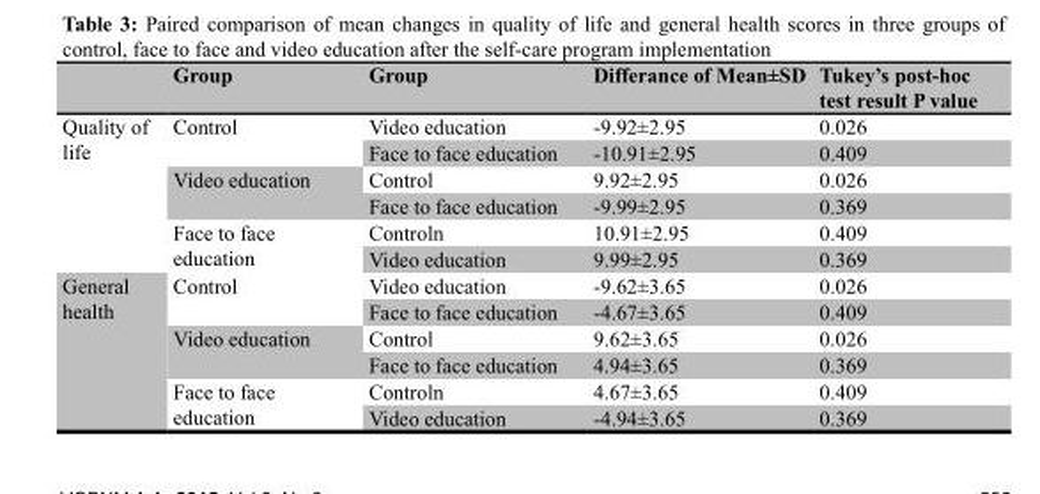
<table><thead><tr><td></td><td>Group</td><td>Group</td><td>Differance of Mean±SD</td><td>Tukey’s post-hoc test result P value</td></tr></thead><tbody><tr><td rowspan="6">Quality of life</td><td rowspan="2">Control</td><td>Video education</td><td>-9.92±2.95</td><td>0.026</td></tr><tr><td>Face to face education</td><td>-10.91±2.95</td><td>0.409</td></tr><tr><td rowspan="2">Video education</td><td>Control</td><td>9.92±2.95</td><td>0.026</td></tr><tr><td>Face to face education</td><td>-9.99±2.95</td><td>0.369</td></tr><tr><td rowspan="2">Face to face education</td><td>Controln</td><td>10.91±2.95</td><td>0.409</td></tr><tr><td>Video education</td><td>9.99±2.95</td><td>0.369</td></tr><tr><td rowspan="6">General health</td><td rowspan="2">Control</td><td>Video education</td><td>-9.62±3.65</td><td>0.026</td></tr><tr><td>Face to face education</td><td>-4.67±3.65</td><td>0.409</td></tr><tr><td rowspan="2">Video education</td><td>Control</td><td>9.62±3.65</td><td>0.026</td></tr><tr><td>Face to face education</td><td>4.94±3.65</td><td>0.369</td></tr><tr><td rowspan="2">Face to face education</td><td>Controln</td><td>4.67±3.65</td><td>0.409</td></tr><tr><td>Video education</td><td>-4.94±3.65</td><td>0.369</td></tr></tbody></table>